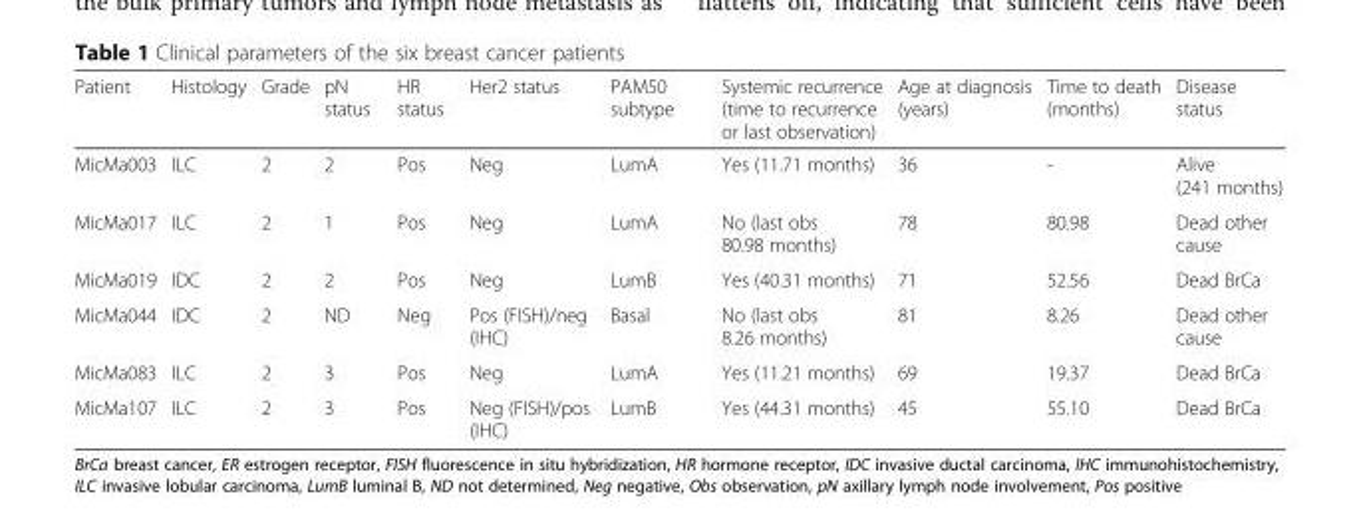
<table><thead><tr><td>Patient</td><td>Histology</td><td>Grade</td><td>pN status</td><td>HR status</td><td>Her2 status</td><td>PAM50 subtype</td><td>Systemic recurrence (time to recurrence or last observation)</td><td>Age at diagnosis (years)</td><td>Time to death (months)</td><td>Disease status</td></tr></thead><tbody><tr><td>MicMa003</td><td>ILC</td><td>2</td><td>2</td><td>Pos</td><td>Neg</td><td>LumA</td><td>Yes (11.71 months)</td><td>36</td><td>-</td><td>Alive (241 months)</td></tr><tr><td>MicMa017</td><td>ILC</td><td>2</td><td>1</td><td>Pos</td><td>Neg</td><td>LumA</td><td>No (last obs 80.98 months)</td><td>78</td><td>80.98</td><td>Dead other cause</td></tr><tr><td>MicMa019</td><td>IDC</td><td>2</td><td>2</td><td>Pos</td><td>Neg</td><td>LumB</td><td>Yes (40.31 months)</td><td>71</td><td>52.56</td><td>Dead BrCa</td></tr><tr><td>MicMa044</td><td>IDC</td><td>2</td><td>ND</td><td>Neg</td><td>Pos (FISH)/neg (IHC)</td><td>Basal</td><td>No (last obs 8.26 months)</td><td>81</td><td>8.26</td><td>Dead other cause</td></tr><tr><td>MicMa083</td><td>ILC</td><td>2</td><td>3</td><td>Pos</td><td>Neg</td><td>LumA</td><td>Yes (11.21 months)</td><td>69</td><td>19.37</td><td>Dead BrCa</td></tr><tr><td>MicMa107</td><td>ILC</td><td>2</td><td>3</td><td>Pos</td><td>Neg (FISH)/pos (IHC)</td><td>LumB</td><td>Yes (44.31 months)</td><td>45</td><td>55.10</td><td>Dead BrCa</td></tr></tbody></table>